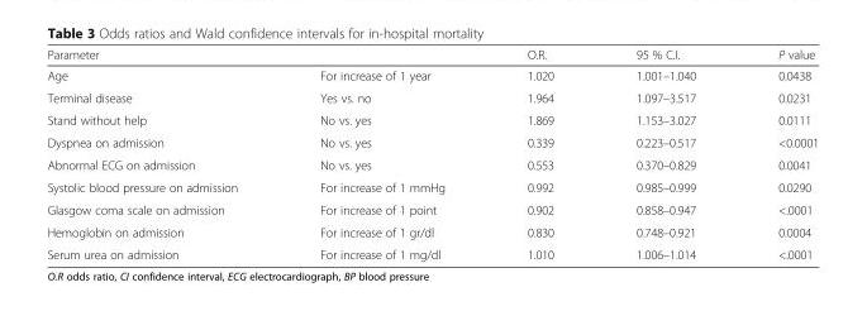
<table><thead><tr><td>Parameter</td><td></td><td>O.R.</td><td>95 % C.I.</td><td>P value</td></tr></thead><tbody><tr><td>Age</td><td>For increase of 1 year</td><td>1.020</td><td>1.001–1.040</td><td>0.0438</td></tr><tr><td>Terminal disease</td><td>Yes vs. no</td><td>1.964</td><td>1.097–3.517</td><td>0.0231</td></tr><tr><td>Stand without help</td><td>No vs. yes</td><td>1.869</td><td>1.153–3.027</td><td>0.0111</td></tr><tr><td>Dyspnea on admission</td><td>No vs. yes</td><td>0.339</td><td>0.223–0.517</td><td>&lt;0.0001</td></tr><tr><td>Abnormal ECG on admission</td><td>No vs. yes</td><td>0.553</td><td>0.370–0.829</td><td>0.0041</td></tr><tr><td>Systolic blood pressure on admission</td><td>For increase of 1 mmHg</td><td>0.992</td><td>0.985–0.999</td><td>0.0290</td></tr><tr><td>Glasgow coma scale on admission</td><td>For increase of 1 point</td><td>0.902</td><td>0.858–0.947</td><td>&lt;.0001</td></tr><tr><td>Hemoglobin on admission</td><td>For increase of 1 gr/dl</td><td>0.830</td><td>0.748–0.921</td><td>0.0004</td></tr><tr><td>Serum urea on admission</td><td>For increase of 1 mg/dl</td><td>1.010</td><td>1.006–1.014</td><td>&lt;.0001</td></tr></tbody></table>